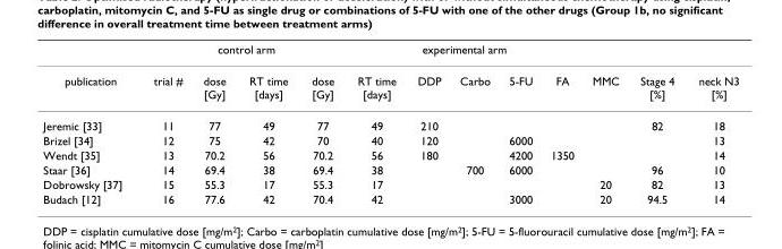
<table><thead><tr><td rowspan="2">publication</td><td rowspan="2">trial #</td><td colspan="2">control arm</td><td colspan="7">experimental arm</td><td rowspan="2">Stage 4 [%]</td><td rowspan="2">neck N3 [%]</td></tr><tr><td>dose [Gy]</td><td>RT time [days]</td><td>dose [Gy]</td><td>RT time [days]</td><td>DDP</td><td>Carbo</td><td>5-FU</td><td>FA</td><td>MMC</td></tr></thead><tbody><tr><td>Jeremic [33]</td><td>11</td><td>77</td><td>49</td><td>77</td><td>49</td><td>210</td><td></td><td></td><td></td><td></td><td>82</td><td>18</td></tr><tr><td>Brizel [34]</td><td>12</td><td>75</td><td>42</td><td>70</td><td>40</td><td>120</td><td></td><td>6000</td><td></td><td></td><td></td><td>13</td></tr><tr><td>Wendt [35]</td><td>13</td><td>70.2</td><td>56</td><td>70.2</td><td>56</td><td>180</td><td></td><td>4200</td><td>1350</td><td></td><td></td><td>14</td></tr><tr><td>Staar [36]</td><td>14</td><td>69.4</td><td>38</td><td>69.4</td><td>38</td><td></td><td>700</td><td>6000</td><td></td><td></td><td>96</td><td>10</td></tr><tr><td>Dobrowsky [37]</td><td>15</td><td>55.3</td><td>17</td><td>55.3</td><td>17</td><td></td><td></td><td></td><td></td><td>20</td><td>82</td><td>13</td></tr><tr><td>Budach [12]</td><td>16</td><td>77.6</td><td>42</td><td>70.4</td><td>42</td><td></td><td></td><td>3000</td><td></td><td>20</td><td>94.5</td><td>14</td></tr></tbody></table>